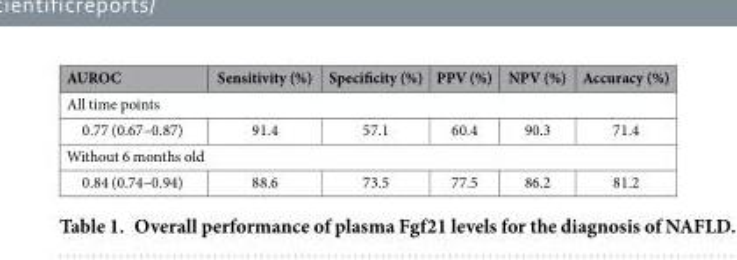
<table><thead><tr><td>AUROC</td><td>Sensitivity (%)</td><td>Specificity (%)</td><td>PPV (%)</td><td>NPV (%)</td><td>Accuracy (%)</td></tr></thead><tbody><tr><td colspan="6">All time points</td></tr><tr><td>0.77 (0.67–0.87)</td><td>91.4</td><td>57.1</td><td>60.4</td><td>90.3</td><td>71.4</td></tr><tr><td colspan="6">Without 6 months old</td></tr><tr><td>0.84 (0.74–0.94)</td><td>88.6</td><td>73.5</td><td>77.5</td><td>86.2</td><td>81.2</td></tr></tbody></table>